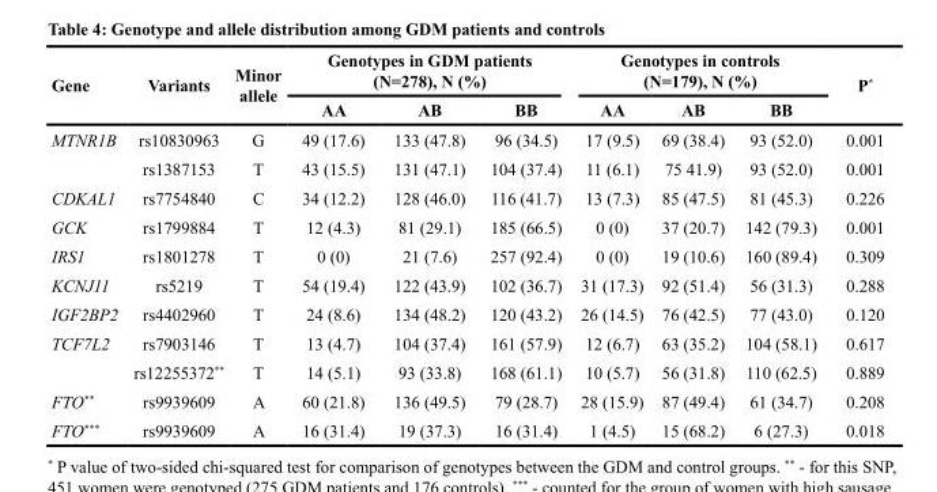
<table><thead><tr><td rowspan="2">Gene</td><td rowspan="2">Variants</td><td rowspan="2">Minor allele</td><td colspan="3">Genotypes in GDM patients (N=278), N (%)</td><td colspan="3">Genotypes in controls (N=179), N (%)</td><td rowspan="2">P*</td></tr><tr><td>AA</td><td>AB</td><td>BB</td><td>AA</td><td>AB</td><td>BB</td></tr></thead><tbody><tr><td rowspan="2">MTNR1B</td><td>rs10830963</td><td>G</td><td>49 (17.6)</td><td>133 (47.8)</td><td>96 (34.5)</td><td>17 (9.5)</td><td>69 (38.4)</td><td>93 (52.0)</td><td>0.001</td></tr><tr><td>rs1387153</td><td>T</td><td>43 (15.5)</td><td>131 (47.1)</td><td>104 (37.4)</td><td>11 (6.1)</td><td>75 41.9)</td><td>93 (52.0)</td><td>0.001</td></tr><tr><td>CDKAL1</td><td>rs7754840</td><td>C</td><td>34 (12.2)</td><td>128 (46.0)</td><td>116 (41.7)</td><td>13 (7.3)</td><td>85 (47.5)</td><td>81 (45.3)</td><td>0.226</td></tr><tr><td>GCK</td><td>rs1799884</td><td>T</td><td>12 (4.3)</td><td>81 (29.1)</td><td>185 (66.5)</td><td>0 (0)</td><td>37 (20.7)</td><td>142 (79.3)</td><td>0.001</td></tr><tr><td>IRS1</td><td>rs1801278</td><td>T</td><td>0 (0)</td><td>21 (7.6)</td><td>257 (92.4)</td><td>0 (0)</td><td>19 (10.6)</td><td>160 (89.4)</td><td>0.309</td></tr><tr><td>KCNJ11</td><td>rs5219</td><td>T</td><td>54 (19.4)</td><td>122 (43.9)</td><td>102 (36.7)</td><td>31 (17.3)</td><td>92 (51.4)</td><td>56 (31.3)</td><td>0.288</td></tr><tr><td>IGF2BP2</td><td>rs4402960</td><td>T</td><td>24 (8.6)</td><td>134 (48.2)</td><td>120 (43.2)</td><td>26 (14.5)</td><td>76 (42.5)</td><td>77 (43.0)</td><td>0.120</td></tr><tr><td rowspan="2">TCF7L2</td><td>rs7903146</td><td>T</td><td>13 (4.7)</td><td>104 (37.4)</td><td>161 (57.9)</td><td>12 (6.7)</td><td>63 (35.2)</td><td>104 (58.1)</td><td>0.617</td></tr><tr><td>rs12255372**</td><td>T</td><td>14 (5.1)</td><td>93 (33.8)</td><td>168 (61.1)</td><td>10 (5.7)</td><td>56 (31.8)</td><td>110 (62.5)</td><td>0.889</td></tr><tr><td>FTO**</td><td>rs9939609</td><td>A</td><td>60 (21.8)</td><td>136 (49.5)</td><td>79 (28.7)</td><td>28 (15.9)</td><td>87 (49.4)</td><td>61 (34.7)</td><td>0.208</td></tr><tr><td>FTO***</td><td>rs9939609</td><td>A</td><td>16 (31.4)</td><td>19 (37.3)</td><td>16 (31.4)</td><td>1 (4.5)</td><td>15 (68.2)</td><td>6 (27.3)</td><td>0.018</td></tr></tbody></table>